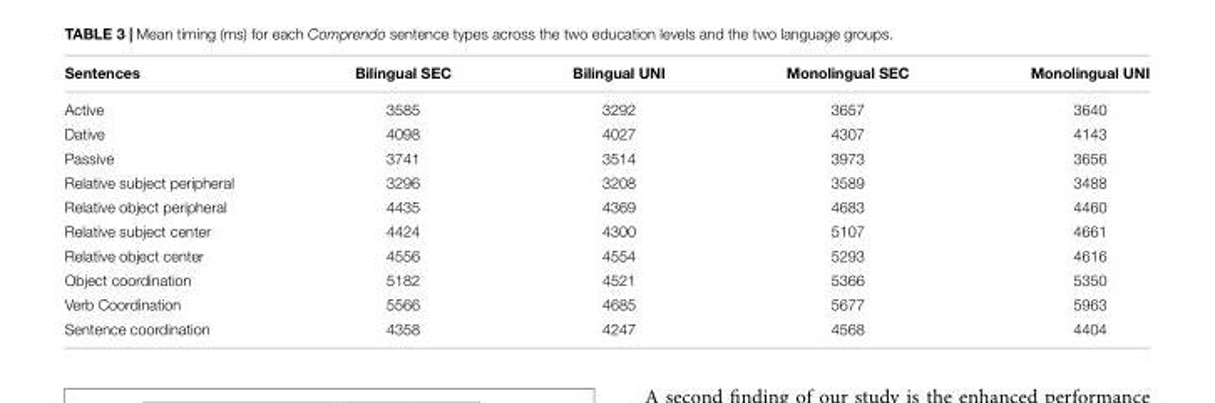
<table><thead><tr><td>Sentences</td><td>Bilingual SEC</td><td>Bilingual UNI</td><td>Monolingual SEC</td><td>Monolingual UNI</td></tr></thead><tbody><tr><td>Active</td><td>3585</td><td>3292</td><td>3657</td><td>3640</td></tr><tr><td>Dative</td><td>4098</td><td>4027</td><td>4307</td><td>4143</td></tr><tr><td>Passive</td><td>3741</td><td>3514</td><td>3973</td><td>3656</td></tr><tr><td>Relative subject peripheral</td><td>3296</td><td>3208</td><td>3589</td><td>3488</td></tr><tr><td>Relative object peripheral</td><td>4435</td><td>4369</td><td>4683</td><td>4460</td></tr><tr><td>Relative subject center</td><td>4424</td><td>4300</td><td>5107</td><td>4661</td></tr><tr><td>Relative object center</td><td>4556</td><td>4554</td><td>5293</td><td>4616</td></tr><tr><td>Object coordination</td><td>5182</td><td>4521</td><td>5366</td><td>5350</td></tr><tr><td>Verb Coordination</td><td>5566</td><td>4685</td><td>5677</td><td>5963</td></tr><tr><td>Sentence coordination</td><td>4358</td><td>4247</td><td>4568</td><td>4404</td></tr></tbody></table>